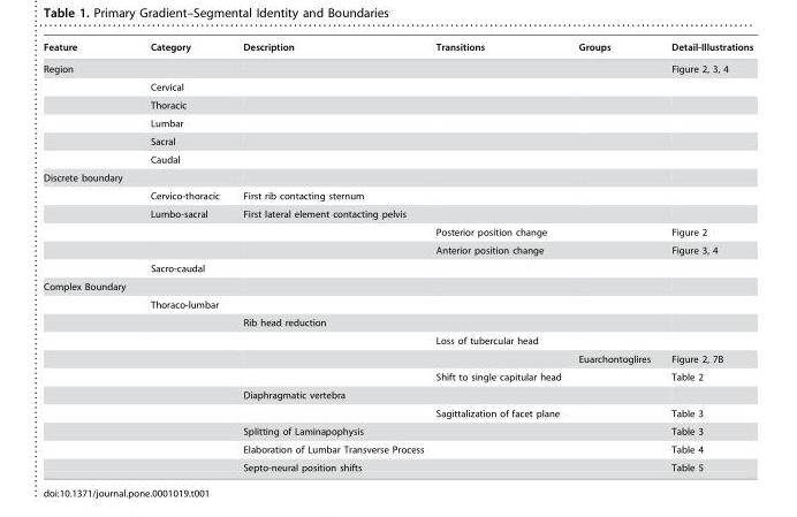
<table><thead><tr><td>Feature</td><td>Category</td><td>Description</td><td>Transitions</td><td>Groups</td><td>Detail-Illustrations</td></tr></thead><tbody><tr><td rowspan="6">Region</td><td></td><td></td><td></td><td></td><td>Figure 2, 3, 4</td></tr><tr><td>Cervical</td><td></td><td></td><td></td><td></td></tr><tr><td>Thoracic</td><td></td><td></td><td></td><td></td></tr><tr><td>Lumbar</td><td></td><td></td><td></td><td></td></tr><tr><td>Sacral</td><td></td><td></td><td></td><td></td></tr><tr><td>Caudal</td><td></td><td></td><td></td><td></td></tr><tr><td colspan="6">Discrete boundary</td></tr><tr><td></td><td>Cervico-thoracic</td><td>First rib contacting sternum</td><td></td><td></td><td></td></tr><tr><td></td><td>Lumbo-sacral</td><td>First lateral element contacting pelvis</td><td></td><td></td><td></td></tr><tr><td></td><td></td><td></td><td>Posterior position change</td><td></td><td>Figure 2</td></tr><tr><td></td><td></td><td></td><td>Anterior position change</td><td></td><td>Figure 3, 4</td></tr><tr><td></td><td>Sacro-caudal</td><td></td><td></td><td></td><td></td></tr><tr><td colspan="6">Complex Boundary</td></tr><tr><td></td><td>Thoraco-lumbar</td><td></td><td></td><td></td><td></td></tr><tr><td></td><td></td><td>Rib head reduction</td><td></td><td></td><td></td></tr><tr><td></td><td></td><td></td><td>Loss of tubercular head</td><td></td><td></td></tr><tr><td></td><td></td><td></td><td></td><td>Euarchontoglires</td><td>Figure 2, 7B</td></tr><tr><td></td><td></td><td></td><td>Shift to single capitular head</td><td></td><td>Table 2</td></tr><tr><td></td><td></td><td>Diaphragmatic vertebra</td><td></td><td></td><td></td></tr><tr><td></td><td></td><td></td><td>Sagittalization of facet plane</td><td></td><td>Table 3</td></tr><tr><td></td><td></td><td>Splitting of Laminapophysis</td><td></td><td></td><td>Table 3</td></tr><tr><td></td><td></td><td>Elaboration of Lumbar Transverse Process</td><td></td><td></td><td>Table 4</td></tr><tr><td></td><td></td><td>Septo-neural position shifts</td><td></td><td></td><td>Table 5</td></tr></tbody></table>